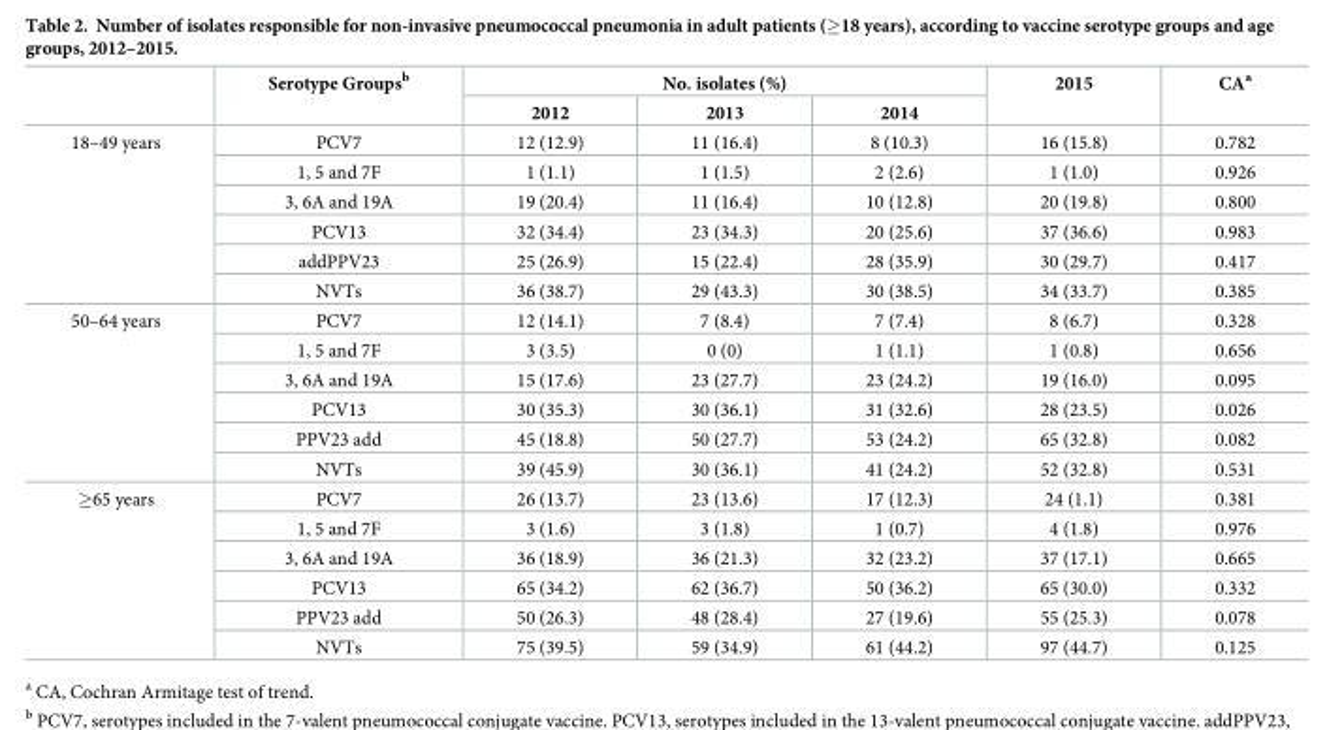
<table><thead><tr><td rowspan="2"></td><td rowspan="2">Serotype Groups<sup>b</sup></td><td colspan="3">No. isolates (%)</td><td rowspan="2">2015</td><td rowspan="2">CA<sup>a</sup></td></tr><tr><td>2012</td><td>2013</td><td>2014</td></tr></thead><tbody><tr><td rowspan="6">18–49 years</td><td>PCV7</td><td>12 (12.9)</td><td>11 (16.4)</td><td>8 (10.3)</td><td>16 (15.8)</td><td>0.782</td></tr><tr><td>1, 5 and 7F</td><td>1 (1.1)</td><td>1 (1.5)</td><td>2 (2.6)</td><td>1 (1.0)</td><td>0.926</td></tr><tr><td>3, 6A and 19A</td><td>19 (20.4)</td><td>11 (16.4)</td><td>10 (12.8)</td><td>20 (19.8)</td><td>0.800</td></tr><tr><td>PCV13</td><td>32 (34.4)</td><td>23 (34.3)</td><td>20 (25.6)</td><td>37 (36.6)</td><td>0.983</td></tr><tr><td>addPPV23</td><td>25 (26.9)</td><td>15 (22.4)</td><td>28 (35.9)</td><td>30 (29.7)</td><td>0.417</td></tr><tr><td>NVTs</td><td>36 (38.7)</td><td>29 (43.3)</td><td>30 (38.5)</td><td>34 (33.7)</td><td>0.385</td></tr><tr><td rowspan="6">50–64 years</td><td>PCV7</td><td>12 (14.1)</td><td>7 (8.4)</td><td>7 (7.4)</td><td>8 (6.7)</td><td>0.328</td></tr><tr><td>1, 5 and 7F</td><td>3 (3.5)</td><td>0 (0)</td><td>1 (1.1)</td><td>1 (0.8)</td><td>0.656</td></tr><tr><td>3, 6A and 19A</td><td>15 (17.6)</td><td>23 (27.7)</td><td>23 (24.2)</td><td>19 (16.0)</td><td>0.095</td></tr><tr><td>PCV13</td><td>30 (35.3)</td><td>30 (36.1)</td><td>31 (32.6)</td><td>28 (23.5)</td><td>0.026</td></tr><tr><td>PPV23 add</td><td>45 (18.8)</td><td>50 (27.7)</td><td>53 (24.2)</td><td>65 (32.8)</td><td>0.082</td></tr><tr><td>NVTs</td><td>39 (45.9)</td><td>30 (36.1)</td><td>41 (24.2)</td><td>52 (32.8)</td><td>0.531</td></tr><tr><td rowspan="6">≥65 years</td><td>PCV7</td><td>26 (13.7)</td><td>23 (13.6)</td><td>17 (12.3)</td><td>24 (1.1)</td><td>0.381</td></tr><tr><td>1, 5 and 7F</td><td>3 (1.6)</td><td>3 (1.8)</td><td>1 (0.7)</td><td>4 (1.8)</td><td>0.976</td></tr><tr><td>3, 6A and 19A</td><td>36 (18.9)</td><td>36 (21.3)</td><td>32 (23.2)</td><td>37 (17.1)</td><td>0.665</td></tr><tr><td>PCV13</td><td>65 (34.2)</td><td>62 (36.7)</td><td>50 (36.2)</td><td>65 (30.0)</td><td>0.332</td></tr><tr><td>PPV23 add</td><td>50 (26.3)</td><td>48 (28.4)</td><td>27 (19.6)</td><td>55 (25.3)</td><td>0.078</td></tr><tr><td>NVTs</td><td>75 (39.5)</td><td>59 (34.9)</td><td>61 (44.2)</td><td>97 (44.7)</td><td>0.125</td></tr></tbody></table>